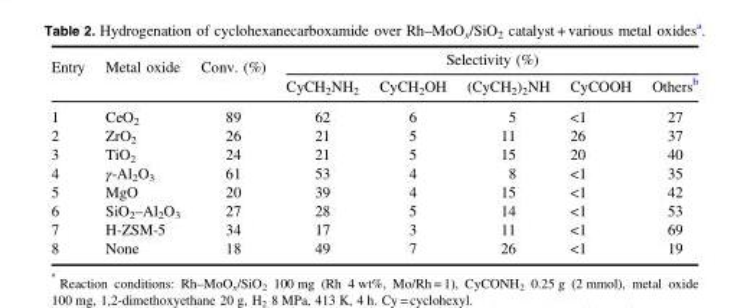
<table><thead><tr><td rowspan="2">Entry</td><td rowspan="2">Metal oxide</td><td rowspan="2">Conv. (%)</td><td colspan="5">Selectivity (%)</td></tr><tr><td>CyCH<sub>2</sub>NH<sub>2</sub></td><td>CyCH<sub>2</sub>OH</td><td>(CyCH<sub>2</sub>)<sub>2</sub>NH</td><td>CyCOOH</td><td>Others<sup>b</sup></td></tr></thead><tbody><tr><td>1</td><td>CeO<sub>2</sub></td><td>89</td><td>62</td><td>6</td><td>5</td><td>&lt;1</td><td>27</td></tr><tr><td>2</td><td>ZrO<sub>2</sub></td><td>26</td><td>21</td><td>5</td><td>11</td><td>26</td><td>37</td></tr><tr><td>3</td><td>TiO<sub>2</sub></td><td>24</td><td>21</td><td>5</td><td>15</td><td>20</td><td>40</td></tr><tr><td>4</td><td>γ-Al<sub>2</sub>O<sub>3</sub></td><td>61</td><td>53</td><td>4</td><td>8</td><td>&lt;1</td><td>35</td></tr><tr><td>5</td><td>MgO</td><td>20</td><td>39</td><td>4</td><td>15</td><td>&lt;1</td><td>42</td></tr><tr><td>6</td><td>SiO<sub>2</sub>–Al<sub>2</sub>O<sub>3</sub></td><td>27</td><td>28</td><td>5</td><td>14</td><td>&lt;1</td><td>53</td></tr><tr><td>7</td><td>H-ZSM-5</td><td>34</td><td>17</td><td>3</td><td>11</td><td>&lt;1</td><td>69</td></tr><tr><td>8</td><td>None</td><td>18</td><td>49</td><td>7</td><td>26</td><td>&lt;1</td><td>19</td></tr></tbody></table>